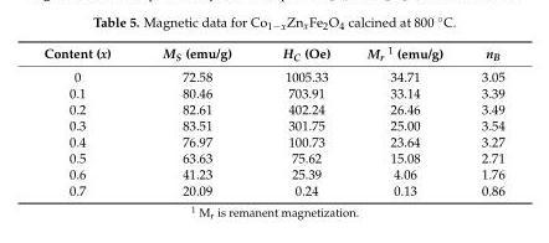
<table><thead><tr><td>Content (x)</td><td>M<sub>S</sub> (emu/g)</td><td>H<sub>C</sub> (Oe)</td><td>M<sub>r</sub> <sup>1</sup> (emu/g)</td><td>n<sub>B</sub></td></tr></thead><tbody><tr><td>0</td><td>72.58</td><td>1005.33</td><td>34.71</td><td>3.05</td></tr><tr><td>0.1</td><td>80.46</td><td>703.91</td><td>33.14</td><td>3.39</td></tr><tr><td>0.2</td><td>82.61</td><td>402.24</td><td>26.46</td><td>3.49</td></tr><tr><td>0.3</td><td>83.51</td><td>301.75</td><td>25.00</td><td>3.54</td></tr><tr><td>0.4</td><td>76.97</td><td>100.73</td><td>23.64</td><td>3.27</td></tr><tr><td>0.5</td><td>63.63</td><td>75.62</td><td>15.08</td><td>2.71</td></tr><tr><td>0.6</td><td>41.23</td><td>25.39</td><td>4.06</td><td>1.76</td></tr><tr><td>0.7</td><td>20.09</td><td>0.24</td><td>0.13</td><td>0.86</td></tr></tbody></table>